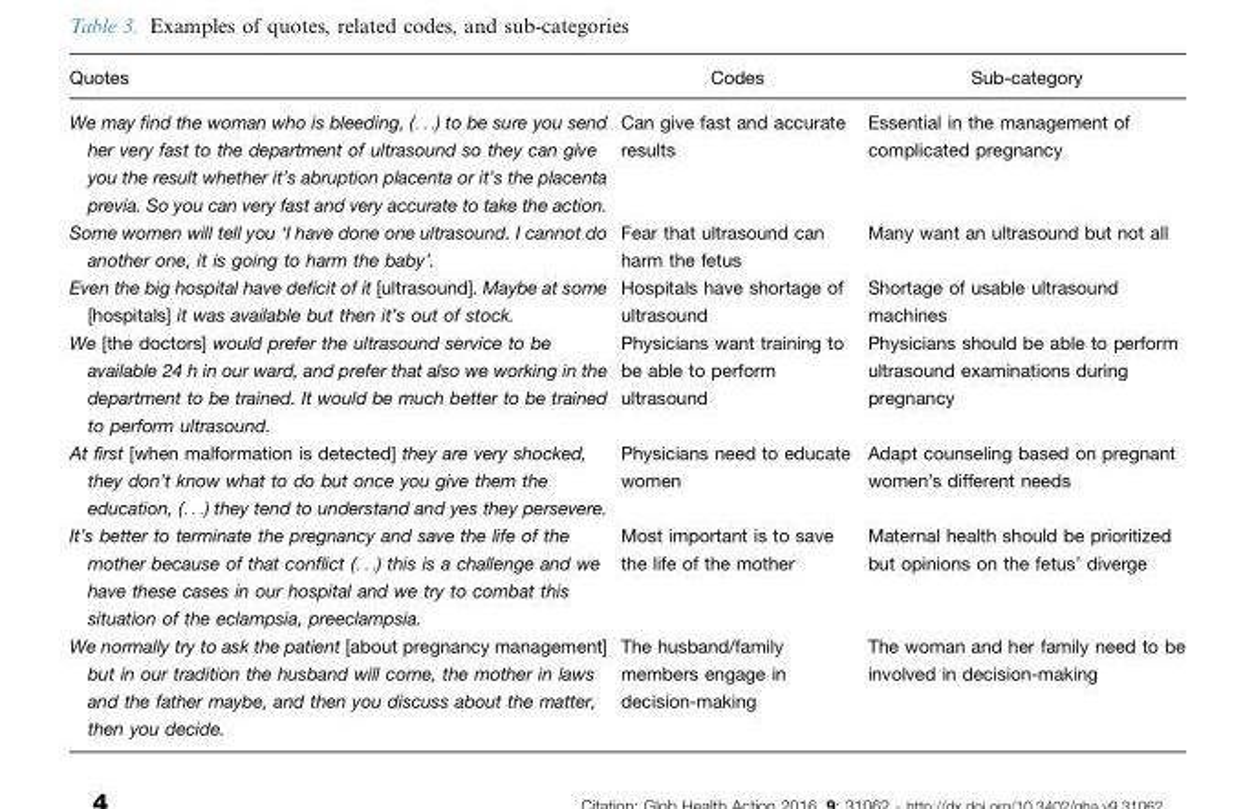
<table><thead><tr><td>Quotes</td><td>Codes</td><td>Sub-category</td></tr></thead><tbody><tr><td>We may find the woman who is bleeding, (. . .) to be sure you send her very fast to the department of ultrasound so they can give you the result whether it’s abruption placenta or it’s the placenta previa. So you can very fast and very accurate to take the action.</td><td>Can give fast and accurate results</td><td>Essential in the management of complicated pregnancy</td></tr><tr><td>Some women will tell you ‘I have done one ultrasound. I cannot do another one, it is going to harm the baby’.</td><td>Fear that ultrasound can harm the fetus</td><td>Many want an ultrasound but not all</td></tr><tr><td>Even the big hospital have deficit of it [ultrasound]. Maybe at some [hospitals] it was available but then it’s out of stock.</td><td>Hospitals have shortage of ultrasound</td><td>Shortage of usable ultrasound machines</td></tr><tr><td>We [the doctors] would prefer the ultrasound service to be available 24 h in our ward, and prefer that also we working in the department to be trained. It would be much better to be trained to perform ultrasound.</td><td>Physicians want training to be able to perform ultrasound</td><td>Physicians should be able to perform ultrasound examinations during pregnancy</td></tr><tr><td>At first [when malformation is detected] they are very shocked, they don’t know what to do but once you give them the education, (. . .) they tend to understand and yes they persevere.</td><td>Physicians need to educate women</td><td>Adapt counseling based on pregnant women’s different needs</td></tr><tr><td>It’s better to terminate the pregnancy and save the life of the mother because of that conflict (. . .) this is a challenge and we have these cases in our hospital and we try to combat this situation of the eclampsia, preeclampsia.</td><td>Most important is to save the life of the mother</td><td>Maternal health should be prioritized but opinions on the fetus’ diverge</td></tr><tr><td>We normally try to ask the patient [about pregnancy management] but in our tradition the husband will come, the mother in laws and the father maybe, and then you discuss about the matter, then you decide.</td><td>The husband/family members engage in decision-making</td><td>The woman and her family need to be involved in decision-making</td></tr></tbody></table>